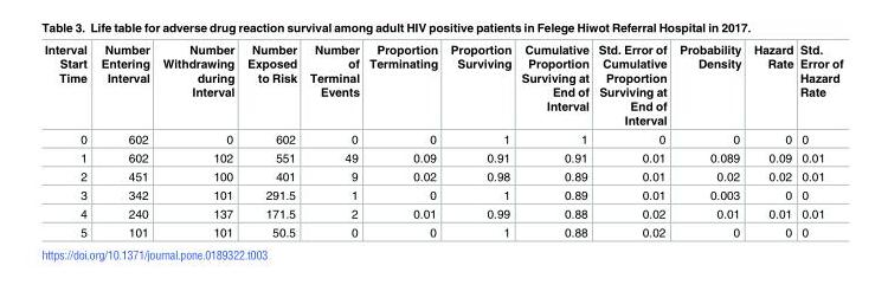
<table><thead><tr><td>Interval Start Time</td><td>Number Entering Interval</td><td>Number Withdrawing during Interval</td><td>Number Exposed to Risk</td><td>Number of Terminal Events</td><td>Proportion Terminating</td><td>Proportion Surviving</td><td>Cumulative Proportion Surviving at End of Interval</td><td>Std. Error of Cumulative Proportion Surviving at End of Interval</td><td>Probability Density</td><td>Hazard Rate</td><td>Std. Error of Hazard Rate</td></tr></thead><tbody><tr><td>0</td><td>602</td><td>0</td><td>602</td><td>0</td><td>0</td><td>1</td><td>1</td><td>0</td><td>0</td><td>0</td><td>0</td></tr><tr><td>1</td><td>602</td><td>102</td><td>551</td><td>49</td><td>0.09</td><td>0.91</td><td>0.91</td><td>0.01</td><td>0.089</td><td>0.09</td><td>0.01</td></tr><tr><td>2</td><td>451</td><td>100</td><td>401</td><td>9</td><td>0.02</td><td>0.98</td><td>0.89</td><td>0.01</td><td>0.02</td><td>0.02</td><td>0.01</td></tr><tr><td>3</td><td>342</td><td>101</td><td>291.5</td><td>1</td><td>0</td><td>1</td><td>0.89</td><td>0.01</td><td>0.003</td><td>0</td><td>0</td></tr><tr><td>4</td><td>240</td><td>137</td><td>171.5</td><td>2</td><td>0.01</td><td>0.99</td><td>0.88</td><td>0.02</td><td>0.01</td><td>0.01</td><td>0.01</td></tr><tr><td>5</td><td>101</td><td>101</td><td>50.5</td><td>0</td><td>0</td><td>1</td><td>0.88</td><td>0.02</td><td>0</td><td>0</td><td>0</td></tr></tbody></table>